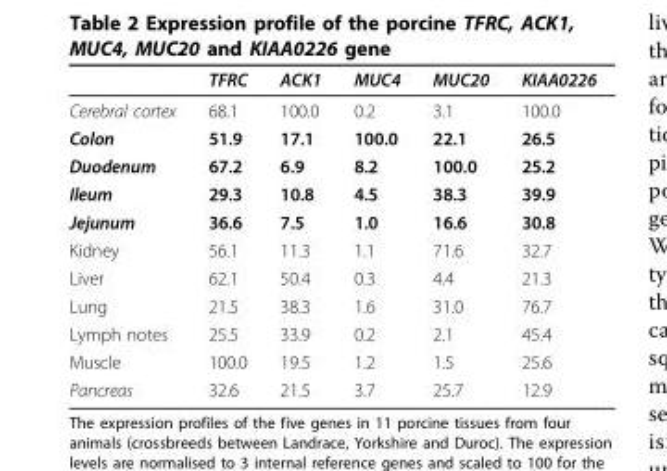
<table><thead><tr><td></td><td>TFRC</td><td>ACK1</td><td>MUC4</td><td>MUC20</td><td>KIAA0226</td></tr></thead><tbody><tr><td>Cerebral cortex</td><td>68.1</td><td>100.0</td><td>0.2</td><td>3.1</td><td>100.0</td></tr><tr><td>Colon</td><td>51.9</td><td>17.1</td><td>100.0</td><td>22.1</td><td>26.5</td></tr><tr><td>Duodenum</td><td>67.2</td><td>6.9</td><td>8.2</td><td>100.0</td><td>25.2</td></tr><tr><td>Ileum</td><td>29.3</td><td>10.8</td><td>4.5</td><td>38.3</td><td>39.9</td></tr><tr><td>Jejunum</td><td>36.6</td><td>7.5</td><td>1.0</td><td>16.6</td><td>30.8</td></tr><tr><td>Kidney</td><td>56.1</td><td>11.3</td><td>1.1</td><td>71.6</td><td>32.7</td></tr><tr><td>Liver</td><td>62.1</td><td>50.4</td><td>0.3</td><td>4.4</td><td>21.3</td></tr><tr><td>Lung</td><td>21.5</td><td>38.3</td><td>1.6</td><td>31.0</td><td>76.7</td></tr><tr><td>Lymph notes</td><td>25.5</td><td>33.9</td><td>0.2</td><td>2.1</td><td>45.4</td></tr><tr><td>Muscle</td><td>100.0</td><td>19.5</td><td>1.2</td><td>1.5</td><td>25.6</td></tr><tr><td>Pancreas</td><td>32.6</td><td>21.5</td><td>3.7</td><td>25.7</td><td>12.9</td></tr></tbody></table>